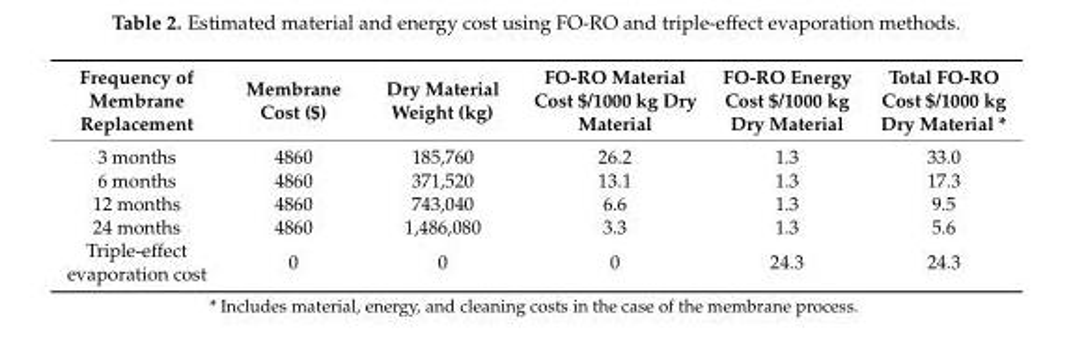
<table><thead><tr><td>Frequency of Membrane Replacement</td><td>Membrane Cost ($)</td><td>Dry Material Weight (kg)</td><td>FO-RO Material Cost $/1000 kg Dry Material</td><td>FO-RO Energy Cost $/1000 kg Dry Material</td><td>Total FO-RO Cost $/1000 kg Dry Material *</td></tr></thead><tbody><tr><td>3 months</td><td>4860</td><td>185,760</td><td>26.2</td><td>1.3</td><td>33.0</td></tr><tr><td>6 months</td><td>4860</td><td>371,520</td><td>13.1</td><td>1.3</td><td>17.3</td></tr><tr><td>12 months</td><td>4860</td><td>743,040</td><td>6.6</td><td>1.3</td><td>9.5</td></tr><tr><td>24 months</td><td>4860</td><td>1,486,080</td><td>3.3</td><td>1.3</td><td>5.6</td></tr><tr><td>Triple-effect evaporation cost</td><td>0</td><td>0</td><td>0</td><td>24.3</td><td>24.3</td></tr></tbody></table>